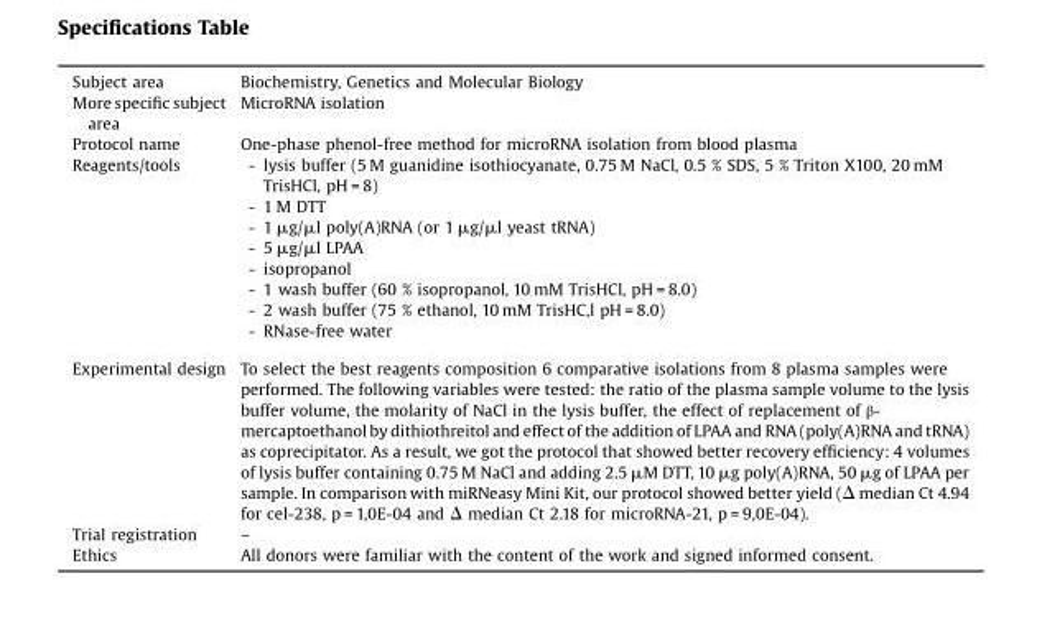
<table><tbody><tr><td>Subject area</td><td>Biochemistry, Genetics and Molecular Biology</td></tr><tr><td>More specific subject area</td><td>MicroRNA isolation</td></tr><tr><td>Protocol name</td><td>One-phase phenol-free method for microRNA isolation from blood plasma</td></tr><tr><td>Reagents/tools</td><td>- lysis buffer (5 M guanidine isothiocyanate, 0.75 M NaCl, 0.5 % SDS, 5 % Triton X100, 20 mM TrisHCl, pH = 8) - 1 M DTT - 1 μg/μl poly(A)RNA (or 1 μg/μl yeast tRNA) - 5 μg/μl LPAA - isopropanol - 1 wash buffer (60 % isopropanol, 10 mM TrisHCl, pH = 8.0) - 2 wash buffer (75 % ethanol, 10 mM TrisHC,l pH = 8.0) - RNase-free water</td></tr><tr><td>Experimental design</td><td>To select the best reagents composition 6 comparative isolations from 8 plasma samples were performed. The following variables were tested: the ratio of the plasma sample volume to the lysis buffer volume, the molarity of NaCl in the lysis buffer, the effect of replacement of β- mercaptoethanol by dithiothreitol and effect of the addition of LPAA and RNA (poly(A)RNA and tRNA) as coprecipitator. As a result, we got the protocol that showed better recovery efficiency: 4 volumes of lysis buffer containing 0.75 M NaCl and adding 2.5 μM DTT, 10 μg poly(A)RNA, 50 μg of LPAA per sample. In comparison with miRNeasy Mini Kit, our protocol showed better yield (Δ median Ct 4.94 for cel-238, p = 1,0E-04 and Δ median Ct 2.18 for microRNA-21, p = 9,0E-04).</td></tr><tr><td>Trial registration</td><td>–</td></tr><tr><td>Ethics</td><td>All donors were familiar with the content of the work and signed informed consent.</td></tr></tbody></table>